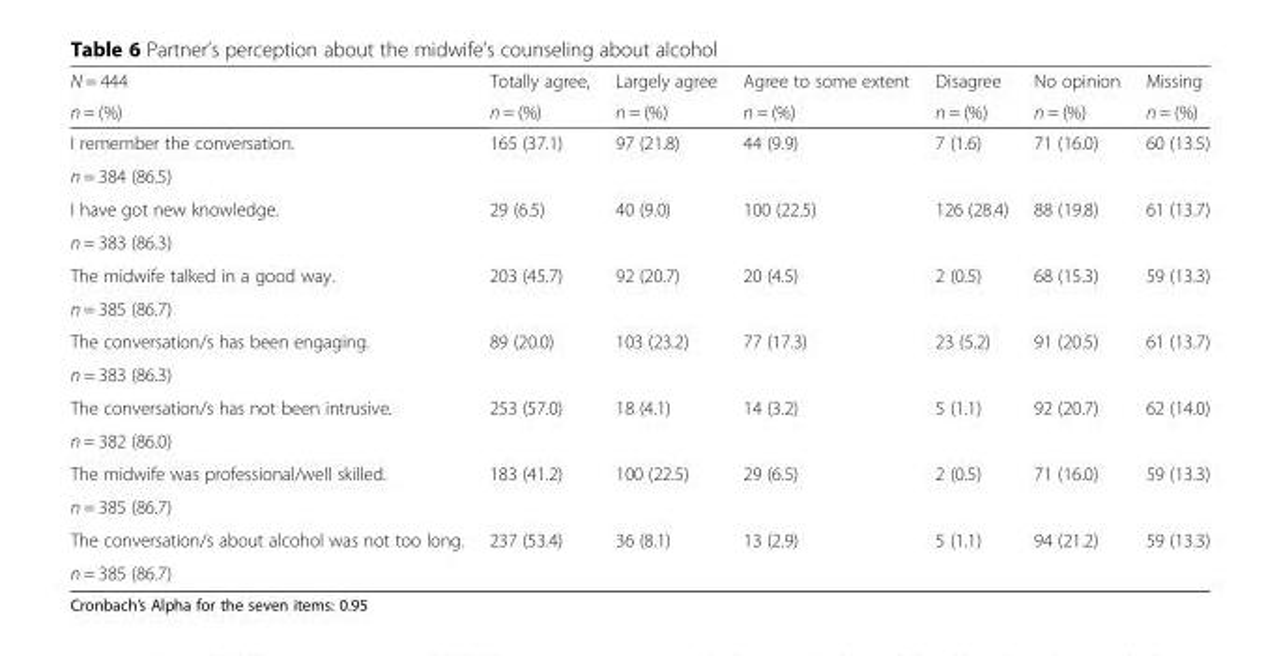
<table><thead><tr><td rowspan="2">N = 444 n = (%)</td><td rowspan="2">Totally agree, n = (%)</td><td rowspan="2">Largely agree n = (%)</td><td rowspan="2">Agree to some extent n = (%)</td><td rowspan="2">Disagree n = (%)</td><td rowspan="2">No opinion n = (%)</td><td rowspan="2">Missing n = (%)</td></tr><tr></tr></thead><tbody><tr><td>I remember the conversation.</td><td rowspan="2">165 (37.1)</td><td rowspan="2">97 (21.8)</td><td rowspan="2">44 (9.9)</td><td rowspan="2">7 (1.6)</td><td rowspan="2">71 (16.0)</td><td rowspan="2">60 (13.5)</td></tr><tr><td>n = 384 (86.5)</td></tr><tr><td>I have got new knowledge.</td><td rowspan="2">29 (6.5)</td><td rowspan="2">40 (9.0)</td><td rowspan="2">100 (22.5)</td><td rowspan="2">126 (28.4)</td><td rowspan="2">88 (19.8)</td><td rowspan="2">61 (13.7)</td></tr><tr><td>n = 383 (86.3)</td></tr><tr><td>The midwife talked in a good way.</td><td rowspan="2">203 (45.7)</td><td rowspan="2">92 (20.7)</td><td rowspan="2">20 (4.5)</td><td rowspan="2">2 (0.5)</td><td rowspan="2">68 (15.3)</td><td rowspan="2">59 (13.3)</td></tr><tr><td>n = 385 (86.7)</td></tr><tr><td>The conversation/s has been engaging.</td><td rowspan="2">89 (20.0)</td><td rowspan="2">103 (23.2)</td><td rowspan="2">77 (17.3)</td><td rowspan="2">23 (5.2)</td><td rowspan="2">91 (20.5)</td><td rowspan="2">61 (13.7)</td></tr><tr><td>n = 383 (86.3)</td></tr><tr><td>The conversation/s has not been intrusive.</td><td rowspan="2">253 (57.0)</td><td rowspan="2">18 (4.1)</td><td rowspan="2">14 (3.2)</td><td rowspan="2">5 (1.1)</td><td rowspan="2">92 (20.7)</td><td rowspan="2">62 (14.0)</td></tr><tr><td>n = 382 (86.0)</td></tr><tr><td>The midwife was professional/well skilled.</td><td rowspan="2">183 (41.2)</td><td rowspan="2">100 (22.5)</td><td rowspan="2">29 (6.5)</td><td rowspan="2">2 (0.5)</td><td rowspan="2">71 (16.0)</td><td rowspan="2">59 (13.3)</td></tr><tr><td>n = 385 (86.7)</td></tr><tr><td>The conversation/s about alcohol was not too long.</td><td rowspan="2">237 (53.4)</td><td rowspan="2">36 (8.1)</td><td rowspan="2">13 (2.9)</td><td rowspan="2">5 (1.1)</td><td rowspan="2">94 (21.2)</td><td rowspan="2">59 (13.3)</td></tr><tr><td>n = 385 (86.7)</td></tr></tbody></table>